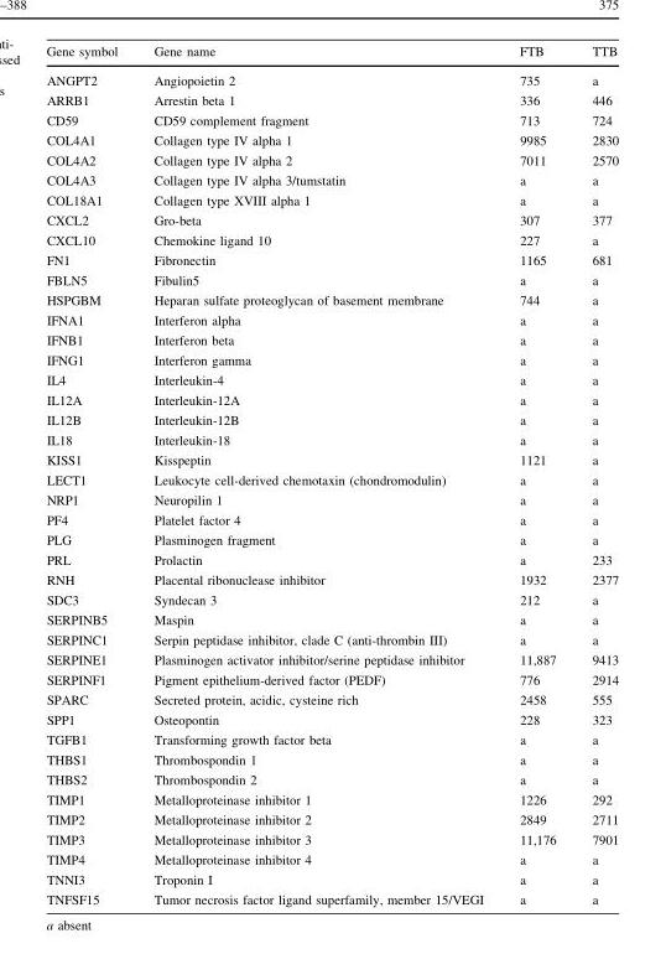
<table><thead><tr><td>Gene symbol</td><td>Gene name</td><td>FTB</td><td>TTB</td></tr></thead><tbody><tr><td>ANGPT2</td><td>Angiopoietin 2</td><td>735</td><td>a</td></tr><tr><td>ARRB1</td><td>Arrestin beta 1</td><td>336</td><td>446</td></tr><tr><td>CD59</td><td>CD59 complement fragment</td><td>713</td><td>724</td></tr><tr><td>COL4A1</td><td>Collagen type IV alpha 1</td><td>9985</td><td>2830</td></tr><tr><td>COL4A2</td><td>Collagen type IV alpha 2</td><td>7011</td><td>2570</td></tr><tr><td>COL4A3</td><td>Collagen type IV alpha 3/tumstatin</td><td>a</td><td>a</td></tr><tr><td>COL18A1</td><td>Collagen type XVIII alpha 1</td><td>a</td><td>a</td></tr><tr><td>CXCL2</td><td>Gro-beta</td><td>307</td><td>377</td></tr><tr><td>CXCL10</td><td>Chemokine ligand 10</td><td>227</td><td>a</td></tr><tr><td>FN1</td><td>Fibronectin</td><td>1165</td><td>681</td></tr><tr><td>FBLN5</td><td>Fibulin5</td><td>a</td><td>a</td></tr><tr><td>HSPGBM</td><td>Heparan sulfate proteoglycan of basement membrane</td><td>744</td><td>a</td></tr><tr><td>IFNA1</td><td>Interferon alpha</td><td>a</td><td>a</td></tr><tr><td>IFNB1</td><td>Interferon beta</td><td>a</td><td>a</td></tr><tr><td>IFNG1</td><td>Interferon gamma</td><td>a</td><td>a</td></tr><tr><td>IL4</td><td>Interleukin-4</td><td>a</td><td>a</td></tr><tr><td>IL12A</td><td>Interleukin-12A</td><td>a</td><td>a</td></tr><tr><td>IL12B</td><td>Interleukin-12B</td><td>a</td><td>a</td></tr><tr><td>IL18</td><td>Interleukin-18</td><td>a</td><td>a</td></tr><tr><td>KISS1</td><td>Kisspeptin</td><td>1121</td><td>a</td></tr><tr><td>LECT1</td><td>Leukocyte cell-derived chemotaxin (chondromodulin)</td><td>a</td><td>a</td></tr><tr><td>NRP1</td><td>Neuropilin 1</td><td>a</td><td>a</td></tr><tr><td>PF4</td><td>Platelet factor 4</td><td>a</td><td>a</td></tr><tr><td>PLG</td><td>Plasminogen fragment</td><td>a</td><td>a</td></tr><tr><td>PRL</td><td>Prolactin</td><td>a</td><td>233</td></tr><tr><td>RNH</td><td>Placental ribonuclease inhibitor</td><td>1932</td><td>2377</td></tr><tr><td>SDC3</td><td>Syndecan 3</td><td>212</td><td>a</td></tr><tr><td>SERPINB5</td><td>Maspin</td><td>a</td><td>a</td></tr><tr><td>SERPINC1</td><td>Serpin peptidase inhibitor, clade C (anti-thrombin III)</td><td>a</td><td>a</td></tr><tr><td>SERPINE1</td><td>Plasminogen activator inhibitor/serine peptidase inhibitor</td><td>11,887</td><td>9413</td></tr><tr><td>SERPINF1</td><td>Pigment epithelium-derived factor (PEDF)</td><td>776</td><td>2914</td></tr><tr><td>SPARC</td><td>Secreted protein, acidic, cysteine rich</td><td>2458</td><td>555</td></tr><tr><td>SPP1</td><td>Osteopontin</td><td>228</td><td>323</td></tr><tr><td>TGFB1</td><td>Transforming growth factor beta</td><td>a</td><td>a</td></tr><tr><td>THBS1</td><td>Thrombospondin 1</td><td>a</td><td>a</td></tr><tr><td>THBS2</td><td>Thrombospondin 2</td><td>a</td><td>a</td></tr><tr><td>TIMP1</td><td>Metalloproteinase inhibitor 1</td><td>1226</td><td>292</td></tr><tr><td>TIMP2</td><td>Metalloproteinase inhibitor 2</td><td>2849</td><td>2711</td></tr><tr><td>TIMP3</td><td>Metalloproteinase inhibitor 3</td><td>11,176</td><td>7901</td></tr><tr><td>TIMP4</td><td>Metalloproteinase inhibitor 4</td><td>a</td><td>a</td></tr><tr><td>TNNI3</td><td>Troponin I</td><td>a</td><td>a</td></tr><tr><td>TNFSF15</td><td>Tumor necrosis factor ligand superfamily, member 15/VEGI</td><td>a</td><td>a</td></tr></tbody></table>